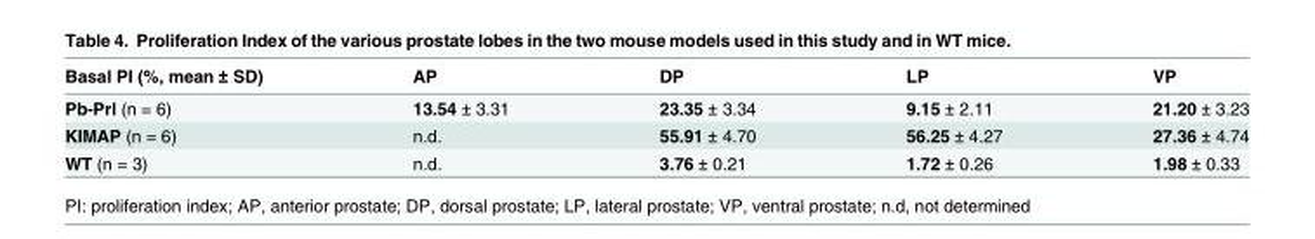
<table><thead><tr><td>Basal PI (%, mean ± SD)</td><td>AP</td><td>DP</td><td>LP</td><td>VP</td></tr></thead><tbody><tr><td>Pb-Prl (n = 6)</td><td>13.54 ± 3.31</td><td>23.35 ± 3.34</td><td>9.15 ± 2.11</td><td>21.20 ± 3.23</td></tr><tr><td>KIMAP (n = 6)</td><td>n.d.</td><td>55.91 ± 4.70</td><td>56.25 ± 4.27</td><td>27.36 ± 4.74</td></tr><tr><td>WT (n = 3)</td><td>n.d.</td><td>3.76 ± 0.21</td><td>1.72 ± 0.26</td><td>1.98 ± 0.33</td></tr></tbody></table>